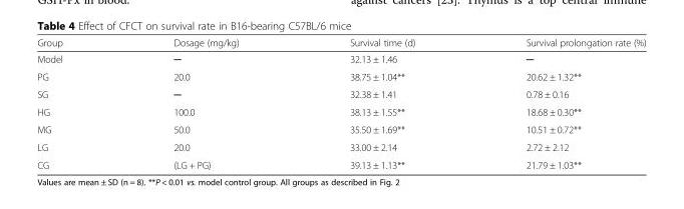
<table><thead><tr><td>Group</td><td>Dosage (mg/kg)</td><td>Survival time (d)</td><td>Survival prolongation rate (%)</td></tr></thead><tbody><tr><td>Model</td><td>─</td><td>32.13 ± 1.46</td><td>─</td></tr><tr><td>PG</td><td>20.0</td><td>38.75 ± 1.04**</td><td>20.62 ± 1.32**</td></tr><tr><td>SG</td><td>─</td><td>32.38 ± 1.41</td><td>0.78 ± 0.16</td></tr><tr><td>HG</td><td>100.0</td><td>38.13 ± 1.55**</td><td>18.68 ± 0.30**</td></tr><tr><td>MG</td><td>50.0</td><td>35.50 ± 1.69**</td><td>10.51 ± 0.72**</td></tr><tr><td>LG</td><td>20.0</td><td>33.00 ± 2.14</td><td>2.72 ± 2.12</td></tr><tr><td>CG</td><td>(LG + PG)</td><td>39.13 ± 1.13**</td><td>21.79 ± 1.03**</td></tr></tbody></table>